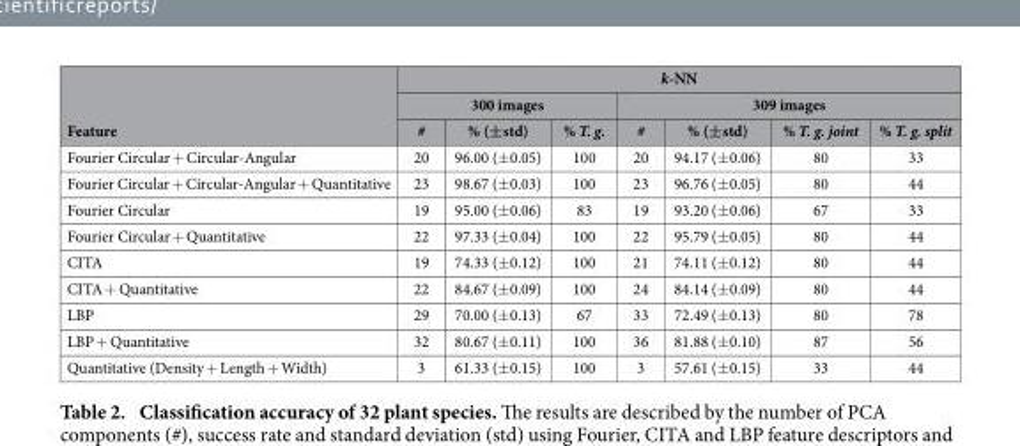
<table><thead><tr><td rowspan="3">Feature</td><td colspan="7">k-NN</td></tr><tr><td colspan="3">300 images</td><td colspan="4">309 images</td></tr><tr><td>#</td><td>% (±std)</td><td>% T. g.</td><td>#</td><td>% (±std)</td><td>% T. g. joint</td><td>% T. g. split</td></tr></thead><tbody><tr><td>Fourier Circular + Circular-Angular</td><td>20</td><td>96.00 (± 0.05)</td><td>100</td><td>20</td><td>94.17 (± 0.06)</td><td>80</td><td>33</td></tr><tr><td>Fourier Circular + Circular-Angular + Quantitative</td><td>23</td><td>98.67 (± 0.03)</td><td>100</td><td>23</td><td>96.76 (± 0.05)</td><td>80</td><td>44</td></tr><tr><td>Fourier Circular</td><td>19</td><td>95.00 (± 0.06)</td><td>83</td><td>19</td><td>93.20 (± 0.06)</td><td>67</td><td>33</td></tr><tr><td>Fourier Circular + Quantitative</td><td>22</td><td>97.33 (± 0.04)</td><td>100</td><td>22</td><td>95.79 (± 0.05)</td><td>80</td><td>44</td></tr><tr><td>CITA</td><td>19</td><td>74.33 (± 0.12)</td><td>100</td><td>21</td><td>74.11 (± 0.12)</td><td>80</td><td>44</td></tr><tr><td>CITA + Quantitative</td><td>22</td><td>84.67 (± 0.09)</td><td>100</td><td>24</td><td>84.14 (± 0.09)</td><td>80</td><td>44</td></tr><tr><td>LBP</td><td>29</td><td>70.00 (± 0.13)</td><td>67</td><td>33</td><td>72.49 (± 0.13)</td><td>80</td><td>78</td></tr><tr><td>LBP + Quantitative</td><td>32</td><td>80.67 (± 0.11)</td><td>100</td><td>36</td><td>81.88 (± 0.10)</td><td>87</td><td>56</td></tr><tr><td>Quantitative (Density + Length + Width)</td><td>3</td><td>61.33 (± 0.15)</td><td>100</td><td>3</td><td>57.61 (± 0.15)</td><td>33</td><td>44</td></tr></tbody></table>